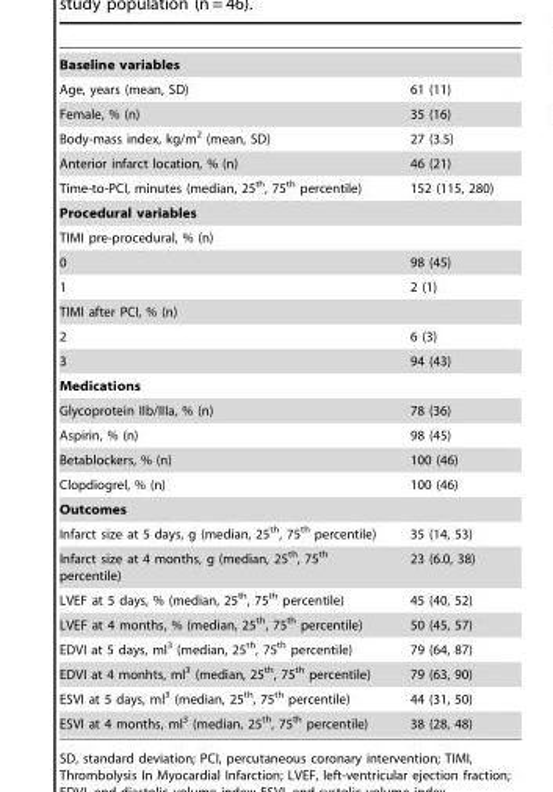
<table><tbody><tr><td colspan="2">Baseline variables</td></tr><tr><td>Age, years (mean, SD)</td><td>61 (11)</td></tr><tr><td>Female, % (n)</td><td>35 (16)</td></tr><tr><td>Body-mass index, kg/m<sup>2</sup> (mean, SD)</td><td>27 (3.5)</td></tr><tr><td>Anterior infarct location, % (n)</td><td>46 (21)</td></tr><tr><td>Time-to-PCI, minutes (median, 25<sup>th</sup>, 75<sup>th</sup> percentile)</td><td>152 (115, 280)</td></tr><tr><td colspan="2">Procedural variables</td></tr><tr><td colspan="2">TIMI pre-procedural, % (n)</td></tr><tr><td>0</td><td>98 (45)</td></tr><tr><td>1</td><td>2 (1)</td></tr><tr><td colspan="2">TIMI after PCI, % (n)</td></tr><tr><td>2</td><td>6 (3)</td></tr><tr><td>3</td><td>94 (43)</td></tr><tr><td colspan="2">Medications</td></tr><tr><td>Glycoprotein IIb/IIIa, % (n)</td><td>78 (36)</td></tr><tr><td>Aspirin, % (n)</td><td>98 (45)</td></tr><tr><td>Betablockers, % (n)</td><td>100 (46)</td></tr><tr><td>Clopdiogrel, % (n)</td><td>100 (46)</td></tr><tr><td colspan="2">Outcomes</td></tr><tr><td>Infarct size at 5 days, g (median, 25<sup>th</sup>, 75<sup>th</sup> percentile)</td><td>35 (14, 53)</td></tr><tr><td>Infarct size at 4 months, g (median, 25<sup>th</sup>, 75<sup>th</sup> percentile)</td><td>23 (6.0, 38)</td></tr><tr><td>LVEF at 5 days, % (median, 25<sup>th</sup>, 75<sup>th</sup> percentile)</td><td>45 (40, 52)</td></tr><tr><td>LVEF at 4 months, % (median, 25<sup>th</sup>, 75<sup>th</sup> percentile)</td><td>50 (45, 57)</td></tr><tr><td>EDVI at 5 days, ml<sup>3</sup> (median, 25<sup>th</sup>, 75<sup>th</sup> percentile)</td><td>79 (64, 87)</td></tr><tr><td>EDVI at 4 monhts, ml<sup>3</sup> (median, 25<sup>th</sup>, 75<sup>th</sup> percentile)</td><td>79 (63, 90)</td></tr><tr><td>ESVI at 5 days, ml<sup>3</sup> (median, 25<sup>th</sup>, 75<sup>th</sup> percentile)</td><td>44 (31, 50)</td></tr><tr><td>ESVI at 4 months, ml<sup>3</sup> (median, 25<sup>th</sup>, 75<sup>th</sup> percentile)</td><td>38 (28, 48)</td></tr></tbody></table>